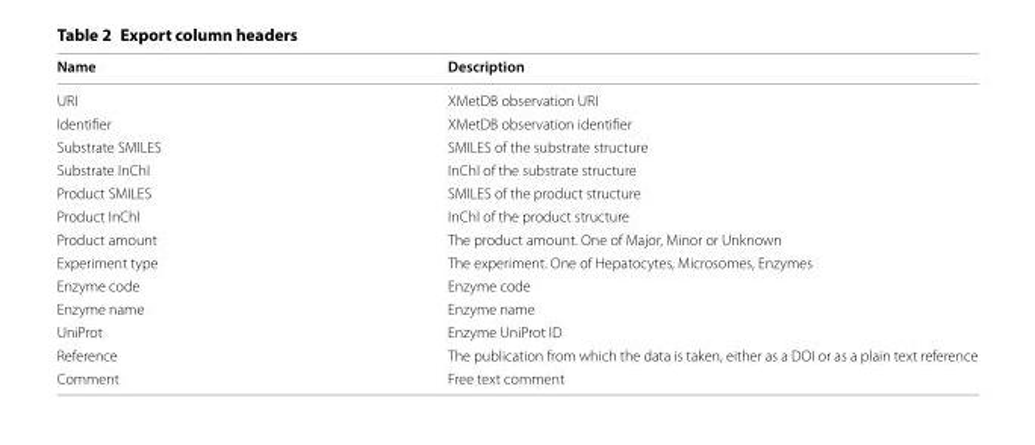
<table><thead><tr><td>Name</td><td>Description</td></tr></thead><tbody><tr><td>URI</td><td>XMetDB observation URI</td></tr><tr><td>Identifier</td><td>XMetDB observation identifier</td></tr><tr><td>Substrate SMILES</td><td>SMILES of the substrate structure</td></tr><tr><td>Substrate InChI</td><td>InChI of the substrate structure</td></tr><tr><td>Product SMILES</td><td>SMILES of the product structure</td></tr><tr><td>Product InChI</td><td>InChI of the product structure</td></tr><tr><td>Product amount</td><td>The product amount. One of Major, Minor or Unknown</td></tr><tr><td>Experiment type</td><td>The experiment. One of Hepatocytes, Microsomes, Enzymes</td></tr><tr><td>Enzyme code</td><td>Enzyme code</td></tr><tr><td>Enzyme name</td><td>Enzyme name</td></tr><tr><td>UniProt</td><td>Enzyme UniProt ID</td></tr><tr><td>Reference</td><td>The publication from which the data is taken, either as a DOI or as a plain text reference</td></tr><tr><td>Comment</td><td>Free text comment</td></tr></tbody></table>